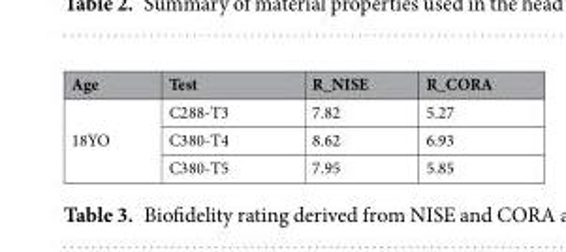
<table><thead><tr><td>Age</td><td>Test</td><td>R_NISE</td><td>R_CORA</td></tr></thead><tbody><tr><td rowspan="3">18YO</td><td>C288-T3</td><td>7.82</td><td>5.27</td></tr><tr><td>C380-T4</td><td>8.62</td><td>6.93</td></tr><tr><td>C380-T5</td><td>7.95</td><td>5.85</td></tr></tbody></table>